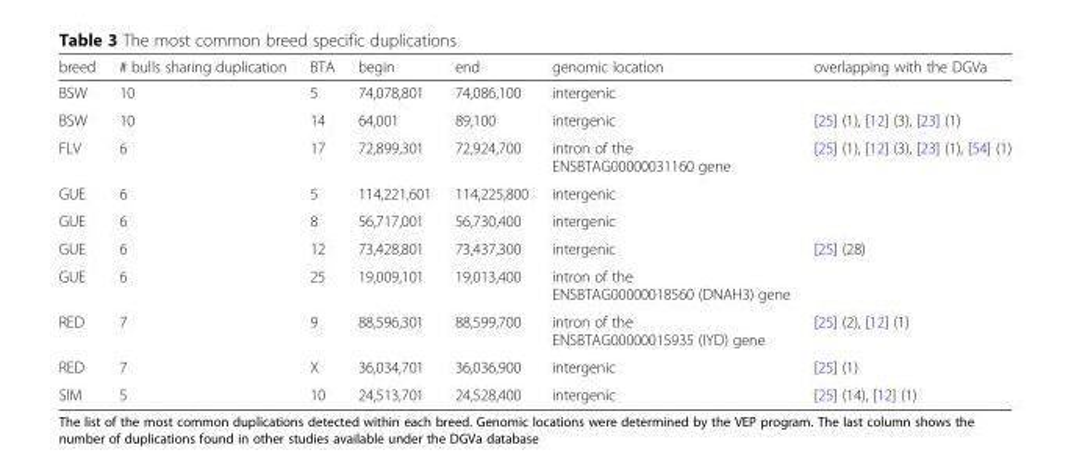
<table><thead><tr><td>breed</td><td># bulls sharing duplication</td><td>BTA</td><td>begin</td><td>end</td><td>genomic location</td><td>overlapping with the DGVa</td></tr></thead><tbody><tr><td>BSW</td><td>10</td><td>5</td><td>74,078,801</td><td>74,086,100</td><td>intergenic</td><td></td></tr><tr><td>BSW</td><td>10</td><td>14</td><td>64,001</td><td>89,100</td><td>intergenic</td><td>[25] (1), [12] (3), [23] (1)</td></tr><tr><td>FLV</td><td>6</td><td>17</td><td>72,899,301</td><td>72,924,700</td><td>intron of the ENSBTAG00000031160 gene</td><td>[25] (1), [12] (3), [23] (1), [54] (1)</td></tr><tr><td>GUE</td><td>6</td><td>5</td><td>114,221,601</td><td>114,225,800</td><td>intergenic</td><td></td></tr><tr><td>GUE</td><td>6</td><td>8</td><td>56,717,001</td><td>56,730,400</td><td>intergenic</td><td></td></tr><tr><td>GUE</td><td>6</td><td>12</td><td>73,428,801</td><td>73,437,300</td><td>intergenic</td><td>[25] (28)</td></tr><tr><td>GUE</td><td>6</td><td>25</td><td>19,009,101</td><td>19,013,400</td><td>intron of the ENSBTAG00000018560 (DNAH3) gene</td><td></td></tr><tr><td>RED</td><td>7</td><td>9</td><td>88,596,301</td><td>88,599,700</td><td>intron of the ENSBTAG00000015935 (IYD) gene</td><td>[25] (2), [12] (1)</td></tr><tr><td>RED</td><td>7</td><td>X</td><td>36,034,701</td><td>36,036,900</td><td>intergenic</td><td>[25] (1)</td></tr><tr><td>SIM</td><td>5</td><td>10</td><td>24,513,701</td><td>24,528,400</td><td>intergenic</td><td>[25] (14), [12] (1)</td></tr></tbody></table>